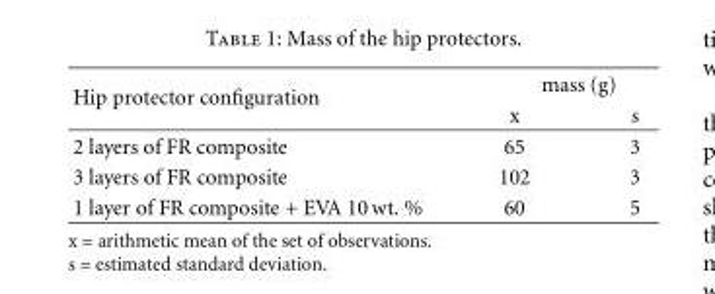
<table><thead><tr><td rowspan="2">Hip protector configuration</td><td colspan="2">mass (g)</td></tr><tr><td>x</td><td>s</td></tr></thead><tbody><tr><td>2 layers of FR composite</td><td>65</td><td>3</td></tr><tr><td>3 layers of FR composite</td><td>102</td><td>3</td></tr><tr><td>1 layer of FR composite + EVA 10 wt. %</td><td>60</td><td>5</td></tr></tbody></table>